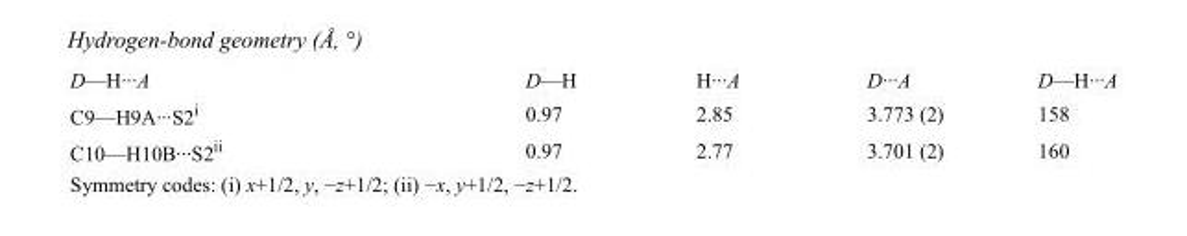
<table><tbody><tr><td>D—H···A</td><td>D—H</td><td>H···A</td><td>D···A</td><td>D—H···A</td></tr><tr><td>C9—H9A···S2<sup>i</sup></td><td>0.97</td><td>2.85</td><td>3.773 (2)</td><td>158</td></tr><tr><td>C10—H10B···S2<sup>ii</sup></td><td>0.97</td><td>2.77</td><td>3.701 (2)</td><td>160</td></tr></tbody></table>